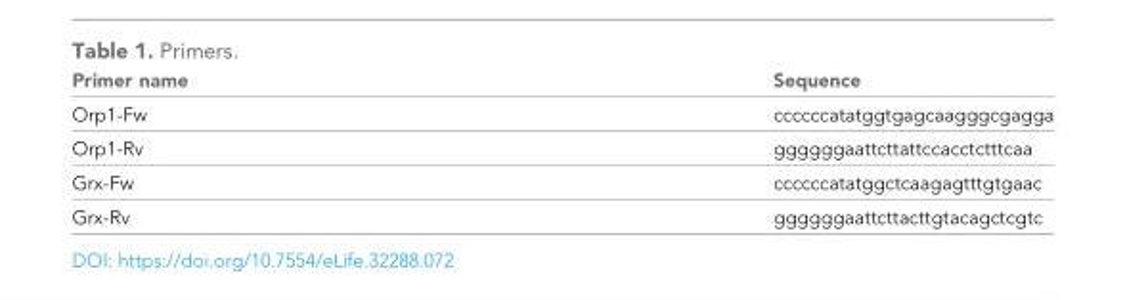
<table><thead><tr><td>Primer name</td><td>Sequence</td></tr></thead><tbody><tr><td>Orp1-Fw</td><td>ccccccatatggtgagcaagggcgagga</td></tr><tr><td>Orp1-Rv</td><td>ggggggaattcttattccacctctttcaa</td></tr><tr><td>Grx-Fw</td><td>ccccccatatggctcaagagtttgtgaac</td></tr><tr><td>Grx-Rv</td><td>ggggggaattcttacttgtacagctcgtc</td></tr></tbody></table>